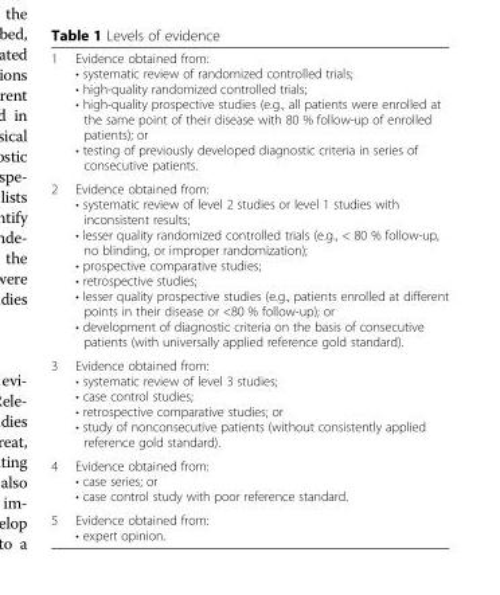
<table><tbody><tr><td>1</td><td>Evidence obtained from: • systematic review of randomized controlled trials; • high-quality randomized controlled trials; • high-quality prospective studies (e.g., all patients were enrolled at the same point of their disease with 80 % follow-up of enrolled patients); or • testing of previously developed diagnostic criteria in series of consecutive patients.</td></tr><tr><td>2</td><td>Evidence obtained from: • systematic review of level 2 studies or level 1 studies with inconsistent results; • lesser quality randomized controlled trials (e.g., &lt; 80 % follow-up, no blinding, or improper randomization); • prospective comparative studies; • retrospective studies; • lesser quality prospective studies (e.g., patients enrolled at different points in their disease or &lt;80 % follow-up); or • development of diagnostic criteria on the basis of consecutive patients (with universally applied reference gold standard).</td></tr><tr><td>3</td><td>Evidence obtained from: • systematic review of level 3 studies; • case control studies; • retrospective comparative studies; or • study of nonconsecutive patients (without consistently applied reference gold standard).</td></tr><tr><td>4</td><td>Evidence obtained from: • case series; or • case control study with poor reference standard.</td></tr><tr><td>5</td><td>Evidence obtained from: • expert opinion.</td></tr></tbody></table>